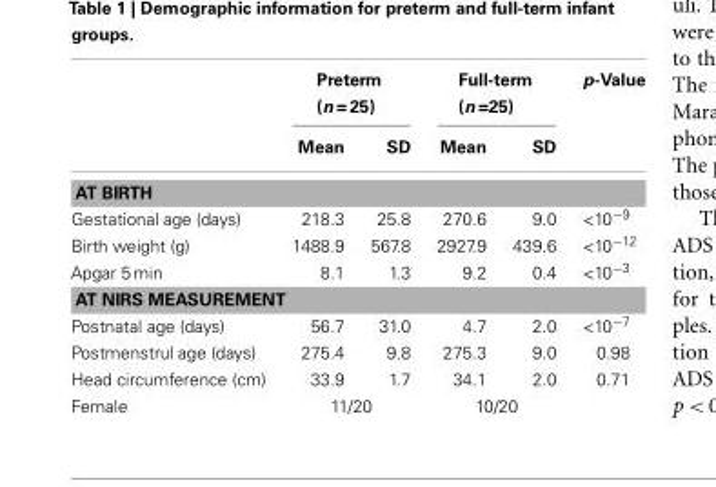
<table><thead><tr><td rowspan="2"></td><td colspan="2">Preterm (n = 25)</td><td colspan="2">Full-term (n =25)</td><td rowspan="2">p-Value</td></tr><tr><td>Mean</td><td>SD</td><td>Mean</td><td>SD</td></tr></thead><tbody><tr><td colspan="6">AT BIRTH</td></tr><tr><td>Gestational age (days)</td><td>218.3</td><td>25.8</td><td>270.6</td><td>9.0</td><td>&lt;10<sup>−9</sup></td></tr><tr><td>Birth weight (g)</td><td>1488.9</td><td>567.8</td><td>2927.9</td><td>439.6</td><td>&lt;10<sup>−12</sup></td></tr><tr><td>Apgar 5 min</td><td>8.1</td><td>1.3</td><td>9.2</td><td>0.4</td><td>&lt;10<sup>−3</sup></td></tr><tr><td colspan="6">AT NIRS MEASUREMENT</td></tr><tr><td>Postnatal age (days)</td><td>56.7</td><td>31.0</td><td>4.7</td><td>2.0</td><td>&lt;10<sup>−7</sup></td></tr><tr><td>Postmenstrul age (days)</td><td>275.4</td><td>9.8</td><td>275.3</td><td>9.0</td><td>0.98</td></tr><tr><td>Head circumference (cm)</td><td>33.9</td><td>1.7</td><td>34.1</td><td>2.0</td><td>0.71</td></tr><tr><td>Female</td><td colspan="2">11/20</td><td colspan="2">10/20</td><td></td></tr></tbody></table>